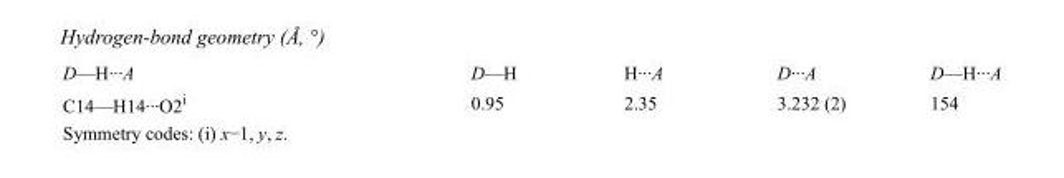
<table><tbody><tr><td>D—H···A</td><td>D—H</td><td>H···A</td><td>D···A</td><td>D—H···A</td></tr><tr><td>C14—H14···O2<sup>i</sup></td><td>0.95</td><td>2.35</td><td>3.232 (2)</td><td>154</td></tr></tbody></table>